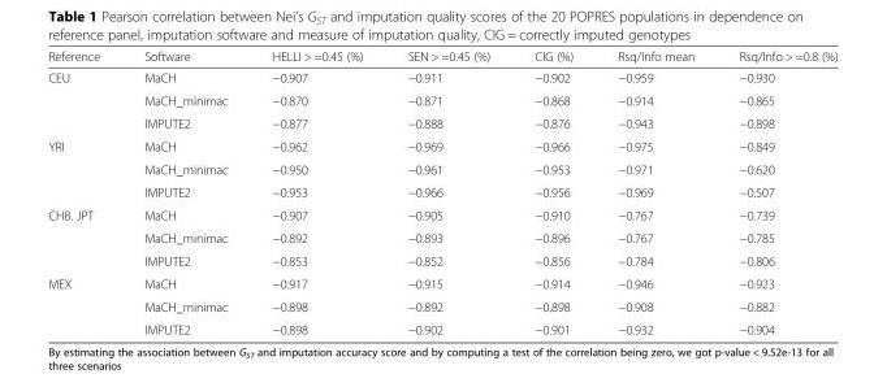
<table><thead><tr><td>Reference</td><td>Software</td><td>HELLI &gt; =0.45 (%)</td><td>SEN &gt; =0.45 (%)</td><td>CIG (%)</td><td>Rsq/Info mean</td><td>Rsq/Info &gt; =0.8 (%)</td></tr></thead><tbody><tr><td rowspan="3">CEU</td><td>MaCH</td><td>−0.907</td><td>−0.911</td><td>−0.902</td><td>−0.959</td><td>−0.930</td></tr><tr><td>MaCH_minimac</td><td>−0.870</td><td>−0.871</td><td>−0.868</td><td>−0.914</td><td>−0.865</td></tr><tr><td>IMPUTE2</td><td>−0.877</td><td>−0.888</td><td>−0.876</td><td>−0.943</td><td>−0.898</td></tr><tr><td rowspan="3">YRI</td><td>MaCH</td><td>−0.962</td><td>−0.969</td><td>−0.966</td><td>−0.975</td><td>−0.849</td></tr><tr><td>MaCH_minimac</td><td>−0.950</td><td>−0.961</td><td>−0.953</td><td>−0.971</td><td>−0.620</td></tr><tr><td>IMPUTE2</td><td>−0.953</td><td>−0.966</td><td>−0.956</td><td>−0.969</td><td>−0.507</td></tr><tr><td rowspan="3">CHB. JPT</td><td>MaCH</td><td>−0.907</td><td>−0.905</td><td>−0.910</td><td>−0.767</td><td>−0.739</td></tr><tr><td>MaCH_minimac</td><td>−0.892</td><td>−0.893</td><td>−0.896</td><td>−0.767</td><td>−0.785</td></tr><tr><td>IMPUTE2</td><td>−0.853</td><td>−0.852</td><td>−0.856</td><td>−0.784</td><td>−0.806</td></tr><tr><td rowspan="3">MEX</td><td>MaCH</td><td>−0.917</td><td>−0.915</td><td>−0.914</td><td>−0.946</td><td>−0.923</td></tr><tr><td>MaCH_minimac</td><td>−0.898</td><td>−0.892</td><td>−0.898</td><td>−0.908</td><td>−0.882</td></tr><tr><td>IMPUTE2</td><td>−0.898</td><td>−0.902</td><td>−0.901</td><td>−0.932</td><td>−0.904</td></tr></tbody></table>